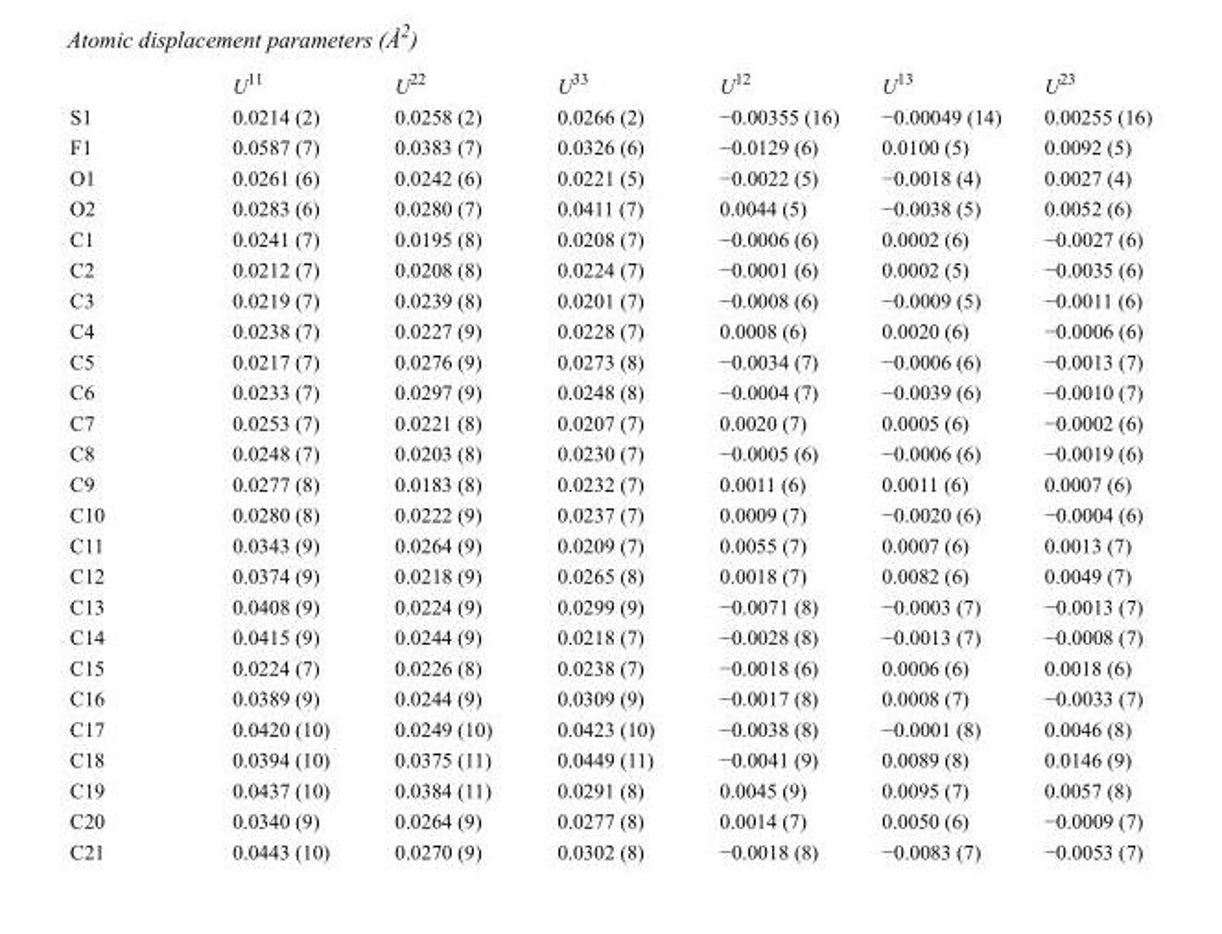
<table><thead><tr><td></td><td>U<sup>11</sup></td><td>U<sup>22</sup></td><td>U<sup>33</sup></td><td>U<sup>12</sup></td><td>U<sup>13</sup></td><td>U<sup>23</sup></td></tr></thead><tbody><tr><td>S1</td><td>0.0214 (2)</td><td>0.0258 (2)</td><td>0.0266 (2)</td><td>−0.00355 (16)</td><td>−0.00049 (14)</td><td>0.00255 (16)</td></tr><tr><td>F1</td><td>0.0587 (7)</td><td>0.0383 (7)</td><td>0.0326 (6)</td><td>−0.0129 (6)</td><td>0.0100 (5)</td><td>0.0092 (5)</td></tr><tr><td>O1</td><td>0.0261 (6)</td><td>0.0242 (6)</td><td>0.0221 (5)</td><td>−0.0022 (5)</td><td>−0.0018 (4)</td><td>0.0027 (4)</td></tr><tr><td>O2</td><td>0.0283 (6)</td><td>0.0280 (7)</td><td>0.0411 (7)</td><td>0.0044 (5)</td><td>−0.0038 (5)</td><td>0.0052 (6)</td></tr><tr><td>C1</td><td>0.0241 (7)</td><td>0.0195 (8)</td><td>0.0208 (7)</td><td>−0.0006 (6)</td><td>0.0002 (6)</td><td>−0.0027 (6)</td></tr><tr><td>C2</td><td>0.0212 (7)</td><td>0.0208 (8)</td><td>0.0224 (7)</td><td>−0.0001 (6)</td><td>0.0002 (5)</td><td>−0.0035 (6)</td></tr><tr><td>C3</td><td>0.0219 (7)</td><td>0.0239 (8)</td><td>0.0201 (7)</td><td>−0.0008 (6)</td><td>−0.0009 (5)</td><td>−0.0011 (6)</td></tr><tr><td>C4</td><td>0.0238 (7)</td><td>0.0227 (9)</td><td>0.0228 (7)</td><td>0.0008 (6)</td><td>0.0020 (6)</td><td>−0.0006 (6)</td></tr><tr><td>C5</td><td>0.0217 (7)</td><td>0.0276 (9)</td><td>0.0273 (8)</td><td>−0.0034 (7)</td><td>−0.0006 (6)</td><td>−0.0013 (7)</td></tr><tr><td>C6</td><td>0.0233 (7)</td><td>0.0297 (9)</td><td>0.0248 (8)</td><td>−0.0004 (7)</td><td>−0.0039 (6)</td><td>−0.0010 (7)</td></tr><tr><td>C7</td><td>0.0253 (7)</td><td>0.0221 (8)</td><td>0.0207 (7)</td><td>0.0020 (7)</td><td>0.0005 (6)</td><td>−0.0002 (6)</td></tr><tr><td>C8</td><td>0.0248 (7)</td><td>0.0203 (8)</td><td>0.0230 (7)</td><td>−0.0005 (6)</td><td>−0.0006 (6)</td><td>−0.0019 (6)</td></tr><tr><td>C9</td><td>0.0277 (8)</td><td>0.0183 (8)</td><td>0.0232 (7)</td><td>0.0011 (6)</td><td>0.0011 (6)</td><td>0.0007 (6)</td></tr><tr><td>C10</td><td>0.0280 (8)</td><td>0.0222 (9)</td><td>0.0237 (7)</td><td>0.0009 (7)</td><td>−0.0020 (6)</td><td>−0.0004 (6)</td></tr><tr><td>C11</td><td>0.0343 (9)</td><td>0.0264 (9)</td><td>0.0209 (7)</td><td>0.0055 (7)</td><td>0.0007 (6)</td><td>0.0013 (7)</td></tr><tr><td>C12</td><td>0.0374 (9)</td><td>0.0218 (9)</td><td>0.0265 (8)</td><td>0.0018 (7)</td><td>0.0082 (6)</td><td>0.0049 (7)</td></tr><tr><td>C13</td><td>0.0408 (9)</td><td>0.0224 (9)</td><td>0.0299 (9)</td><td>−0.0071 (8)</td><td>−0.0003 (7)</td><td>−0.0013 (7)</td></tr><tr><td>C14</td><td>0.0415 (9)</td><td>0.0244 (9)</td><td>0.0218 (7)</td><td>−0.0028 (8)</td><td>−0.0013 (7)</td><td>−0.0008 (7)</td></tr><tr><td>C15</td><td>0.0224 (7)</td><td>0.0226 (8)</td><td>0.0238 (7)</td><td>−0.0018 (6)</td><td>0.0006 (6)</td><td>0.0018 (6)</td></tr><tr><td>C16</td><td>0.0389 (9)</td><td>0.0244 (9)</td><td>0.0309 (9)</td><td>−0.0017 (8)</td><td>0.0008 (7)</td><td>−0.0033 (7)</td></tr><tr><td>C17</td><td>0.0420 (10)</td><td>0.0249 (10)</td><td>0.0423 (10)</td><td>−0.0038 (8)</td><td>−0.0001 (8)</td><td>0.0046 (8)</td></tr><tr><td>C18</td><td>0.0394 (10)</td><td>0.0375 (11)</td><td>0.0449 (11)</td><td>−0.0041 (9)</td><td>0.0089 (8)</td><td>0.0146 (9)</td></tr><tr><td>C19</td><td>0.0437 (10)</td><td>0.0384 (11)</td><td>0.0291 (8)</td><td>0.0045 (9)</td><td>0.0095 (7)</td><td>0.0057 (8)</td></tr><tr><td>C20</td><td>0.0340 (9)</td><td>0.0264 (9)</td><td>0.0277 (8)</td><td>0.0014 (7)</td><td>0.0050 (6)</td><td>−0.0009 (7)</td></tr><tr><td>C21</td><td>0.0443 (10)</td><td>0.0270 (9)</td><td>0.0302 (8)</td><td>−0.0018 (8)</td><td>−0.0083 (7)</td><td>−0.0053 (7)</td></tr></tbody></table>